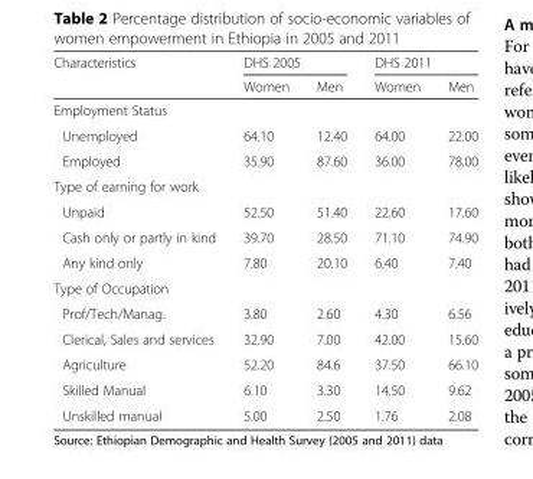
<table><thead><tr><td rowspan="2">Characteristics</td><td colspan="2">DHS 2005</td><td colspan="2">DHS 2011</td></tr><tr><td>Women</td><td>Men</td><td>Women</td><td>Men</td></tr></thead><tbody><tr><td colspan="5">Employment Status</td></tr><tr><td>Unemployed</td><td>64.10</td><td>12.40</td><td>64.00</td><td>22.00</td></tr><tr><td>Employed</td><td>35.90</td><td>87.60</td><td>36.00</td><td>78.00</td></tr><tr><td colspan="5">Type of earning for work</td></tr><tr><td>Unpaid</td><td>52.50</td><td>51.40</td><td>22.60</td><td>17.60</td></tr><tr><td>Cash only or partly in kind</td><td>39.70</td><td>28.50</td><td>71.10</td><td>74.90</td></tr><tr><td>Any kind only</td><td>7.80</td><td>20.10</td><td>6.40</td><td>7.40</td></tr><tr><td colspan="5">Type of Occupation</td></tr><tr><td>Prof/Tech/Manag.</td><td>3.80</td><td>2.60</td><td>4.30</td><td>6.56</td></tr><tr><td>Clerical, Sales and services</td><td>32.90</td><td>7.00</td><td>42.00</td><td>15.60</td></tr><tr><td>Agriculture</td><td>52.20</td><td>84.6</td><td>37.50</td><td>66.10</td></tr><tr><td>Skilled Manual</td><td>6.10</td><td>3.30</td><td>14.50</td><td>9.62</td></tr><tr><td>Unskilled manual</td><td>5.00</td><td>2.50</td><td>1.76</td><td>2.08</td></tr></tbody></table>